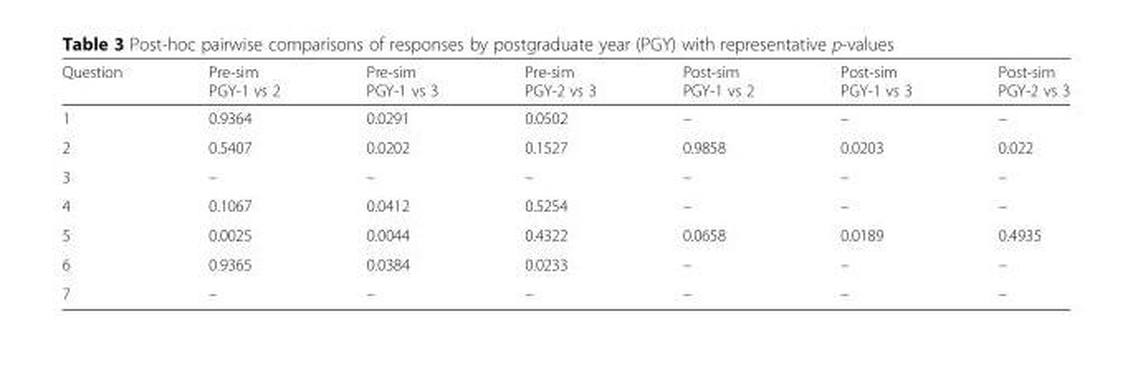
<table><thead><tr><td>Question</td><td>Pre-sim PGY-1 vs 2</td><td>Pre-sim PGY-1 vs 3</td><td>Pre-sim PGY-2 vs 3</td><td>Post-sim PGY-1 vs 2</td><td>Post-sim PGY-1 vs 3</td><td>Post-sim PGY-2 vs 3</td></tr></thead><tbody><tr><td>1</td><td>0.9364</td><td>0.0291</td><td>0.0502</td><td>–</td><td>–</td><td>–</td></tr><tr><td>2</td><td>0.5407</td><td>0.0202</td><td>0.1527</td><td>0.9858</td><td>0.0203</td><td>0.022</td></tr><tr><td>3</td><td>–</td><td>–</td><td>–</td><td>–</td><td>–</td><td>–</td></tr><tr><td>4</td><td>0.1067</td><td>0.0412</td><td>0.5254</td><td>–</td><td>–</td><td>–</td></tr><tr><td>5</td><td>0.0025</td><td>0.0044</td><td>0.4322</td><td>0.0658</td><td>0.0189</td><td>0.4935</td></tr><tr><td>6</td><td>0.9365</td><td>0.0384</td><td>0.0233</td><td>–</td><td>–</td><td>–</td></tr><tr><td>7</td><td>–</td><td>–</td><td>–</td><td>–</td><td>–</td><td>–</td></tr></tbody></table>